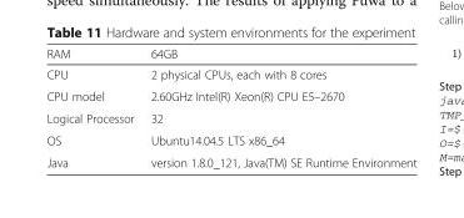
<table><thead><tr><td>RAM</td><td>64GB</td></tr></thead><tbody><tr><td>CPU</td><td>2 physical CPUs, each with 8 cores</td></tr><tr><td>CPU model</td><td>2.60GHz Intel(R) Xeon(R) CPU E5–2670</td></tr><tr><td>Logical Processor</td><td>32</td></tr><tr><td>OS</td><td>Ubuntu14.04.5 LTS x86_64</td></tr><tr><td>Java</td><td>version 1.8.0_121, Java(TM) SE Runtime Environment</td></tr></tbody></table>